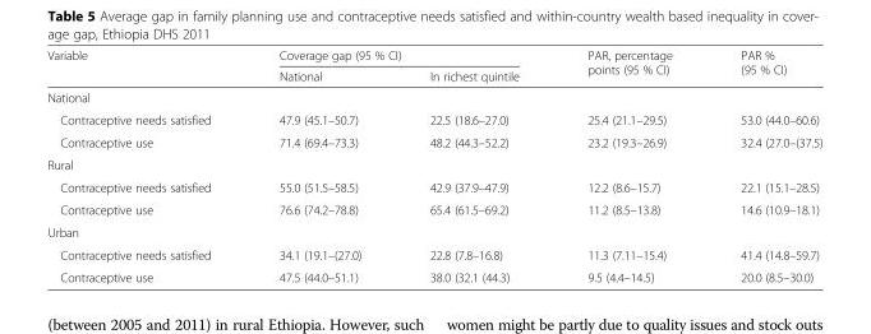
<table><thead><tr><td rowspan="2">Variable</td><td colspan="2">Coverage gap (95 % CI)</td><td rowspan="2">PAR, percentage points (95 % CI)</td><td rowspan="2">PAR % (95 % CI)</td></tr><tr><td>National</td><td>In richest quintile</td></tr></thead><tbody><tr><td colspan="5">National</td></tr><tr><td>Contraceptive needs satisfied</td><td>47.9 (45.1–50.7)</td><td>22.5 (18.6–27.0)</td><td>25.4 (21.1–29.5)</td><td>53.0 (44.0–60.6)</td></tr><tr><td>Contraceptive use</td><td>71.4 (69.4–73.3)</td><td>48.2 (44.3–52.2)</td><td>23.2 (19.3–26.9)</td><td>32.4 (27.0–(37.5)</td></tr><tr><td colspan="5">Rural</td></tr><tr><td>Contraceptive needs satisfied</td><td>55.0 (51.5–58.5)</td><td>42.9 (37.9–47.9)</td><td>12.2 (8.6–15.7)</td><td>22.1 (15.1–28.5)</td></tr><tr><td>Contraceptive use</td><td>76.6 (74.2–78.8)</td><td>65.4 (61.5–69.2)</td><td>11.2 (8.5–13.8)</td><td>14.6 (10.9–18.1)</td></tr><tr><td colspan="5">Urban</td></tr><tr><td>Contraceptive needs satisfied</td><td>34.1 (19.1–(27.0)</td><td>22.8 (7.8–16.8)</td><td>11.3 (7.11–15.4)</td><td>41.4 (14.8–59.7)</td></tr><tr><td>Contraceptive use</td><td>47.5 (44.0–51.1)</td><td>38.0 (32.1 (44.3)</td><td>9.5 (4.4–14.5)</td><td>20.0 (8.5–30.0)</td></tr></tbody></table>